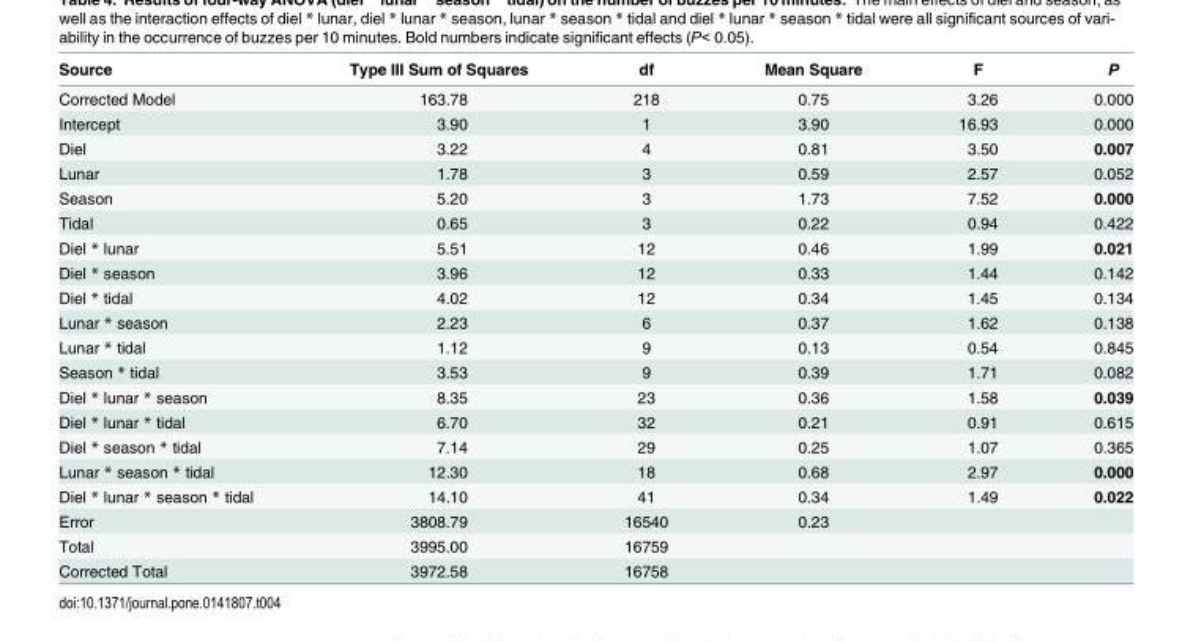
<table><thead><tr><td>Source</td><td>Type III Sum of Squares</td><td>df</td><td>Mean Square</td><td>F</td><td>P</td></tr></thead><tbody><tr><td>Corrected Model</td><td>163.78</td><td>218</td><td>0.75</td><td>3.26</td><td>0.000</td></tr><tr><td>Intercept</td><td>3.90</td><td>1</td><td>3.90</td><td>16.93</td><td>0.000</td></tr><tr><td>Diel</td><td>3.22</td><td>4</td><td>0.81</td><td>3.50</td><td>0.007</td></tr><tr><td>Lunar</td><td>1.78</td><td>3</td><td>0.59</td><td>2.57</td><td>0.052</td></tr><tr><td>Season</td><td>5.20</td><td>3</td><td>1.73</td><td>7.52</td><td>0.000</td></tr><tr><td>Tidal</td><td>0.65</td><td>3</td><td>0.22</td><td>0.94</td><td>0.422</td></tr><tr><td>Diel * lunar</td><td>5.51</td><td>12</td><td>0.46</td><td>1.99</td><td>0.021</td></tr><tr><td>Diel * season</td><td>3.96</td><td>12</td><td>0.33</td><td>1.44</td><td>0.142</td></tr><tr><td>Diel * tidal</td><td>4.02</td><td>12</td><td>0.34</td><td>1.45</td><td>0.134</td></tr><tr><td>Lunar * season</td><td>2.23</td><td>6</td><td>0.37</td><td>1.62</td><td>0.138</td></tr><tr><td>Lunar * tidal</td><td>1.12</td><td>9</td><td>0.13</td><td>0.54</td><td>0.845</td></tr><tr><td>Season * tidal</td><td>3.53</td><td>9</td><td>0.39</td><td>1.71</td><td>0.082</td></tr><tr><td>Diel * lunar * season</td><td>8.35</td><td>23</td><td>0.36</td><td>1.58</td><td>0.039</td></tr><tr><td>Diel * lunar * tidal</td><td>6.70</td><td>32</td><td>0.21</td><td>0.91</td><td>0.615</td></tr><tr><td>Diel * season * tidal</td><td>7.14</td><td>29</td><td>0.25</td><td>1.07</td><td>0.365</td></tr><tr><td>Lunar * season * tidal</td><td>12.30</td><td>18</td><td>0.68</td><td>2.97</td><td>0.000</td></tr><tr><td>Diel * lunar * season * tidal</td><td>14.10</td><td>41</td><td>0.34</td><td>1.49</td><td>0.022</td></tr><tr><td>Error</td><td>3808.79</td><td>16540</td><td>0.23</td><td></td><td></td></tr><tr><td>Total</td><td>3995.00</td><td>16759</td><td></td><td></td><td></td></tr><tr><td>Corrected Total</td><td>3972.58</td><td>16758</td><td></td><td></td><td></td></tr></tbody></table>